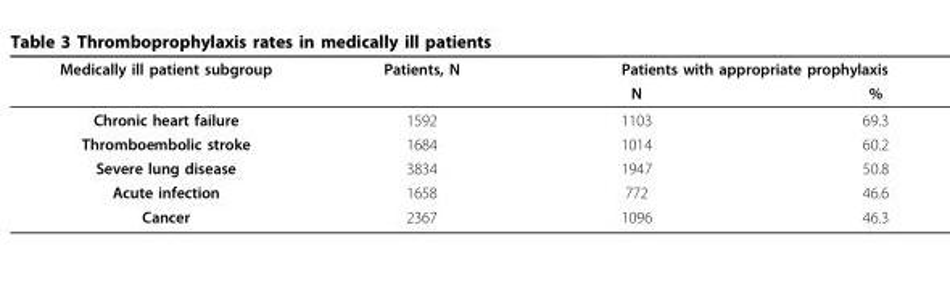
<table><thead><tr><td rowspan="2">Medically ill patient subgroup</td><td rowspan="2">Patients, N</td><td colspan="2">Patients with appropriate prophylaxis</td></tr><tr><td>N</td><td>%</td></tr></thead><tbody><tr><td>Chronic heart failure</td><td>1592</td><td>1103</td><td>69.3</td></tr><tr><td>Thromboembolic stroke</td><td>1684</td><td>1014</td><td>60.2</td></tr><tr><td>Severe lung disease</td><td>3834</td><td>1947</td><td>50.8</td></tr><tr><td>Acute infection</td><td>1658</td><td>772</td><td>46.6</td></tr><tr><td>Cancer</td><td>2367</td><td>1096</td><td>46.3</td></tr></tbody></table>